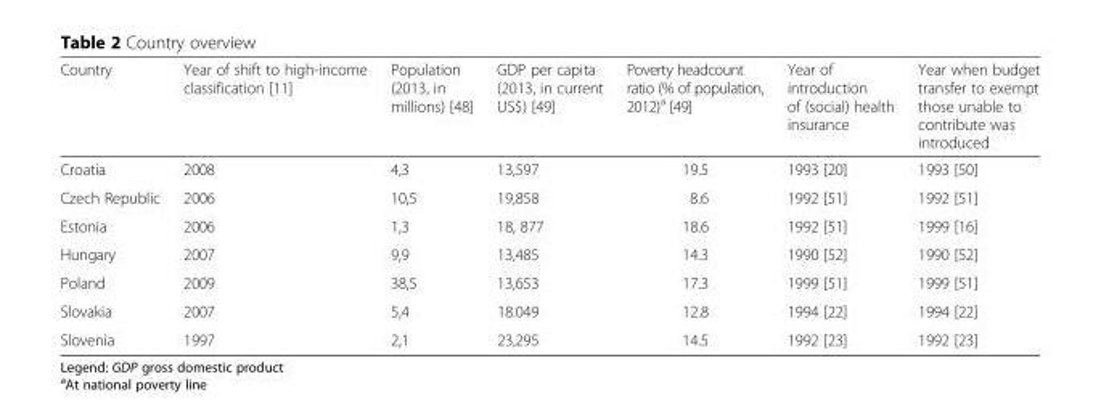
<table><thead><tr><td>Country</td><td>Year of shift to high-income classification [11]</td><td>Population (2013, in millions) [48]</td><td>GDP per capita (2013, in current US$) [49]</td><td>Poverty headcount ratio (% of population, 2012)<sup>a</sup> [49]</td><td>Year of introduction of (social) health insurance</td><td>Year when budget transfer to exempt those unable to contribute was introduced</td></tr></thead><tbody><tr><td>Croatia</td><td>2008</td><td>4,3</td><td>13,597</td><td>19.5</td><td>1993 [20]</td><td>1993 [50]</td></tr><tr><td>Czech Republic</td><td>2006</td><td>10,5</td><td>19,858</td><td>8.6</td><td>1992 [51]</td><td>1992 [51]</td></tr><tr><td>Estonia</td><td>2006</td><td>1,3</td><td>18, 877</td><td>18.6</td><td>1992 [51]</td><td>1999 [16]</td></tr><tr><td>Hungary</td><td>2007</td><td>9,9</td><td>13,485</td><td>14.3</td><td>1990 [52]</td><td>1990 [52]</td></tr><tr><td>Poland</td><td>2009</td><td>38,5</td><td>13,653</td><td>17.3</td><td>1999 [51]</td><td>1999 [51]</td></tr><tr><td>Slovakia</td><td>2007</td><td>5,4</td><td>18.049</td><td>12.8</td><td>1994 [22]</td><td>1994 [22]</td></tr><tr><td>Slovenia</td><td>1997</td><td>2,1</td><td>23,295</td><td>14.5</td><td>1992 [23]</td><td>1992 [23]</td></tr></tbody></table>